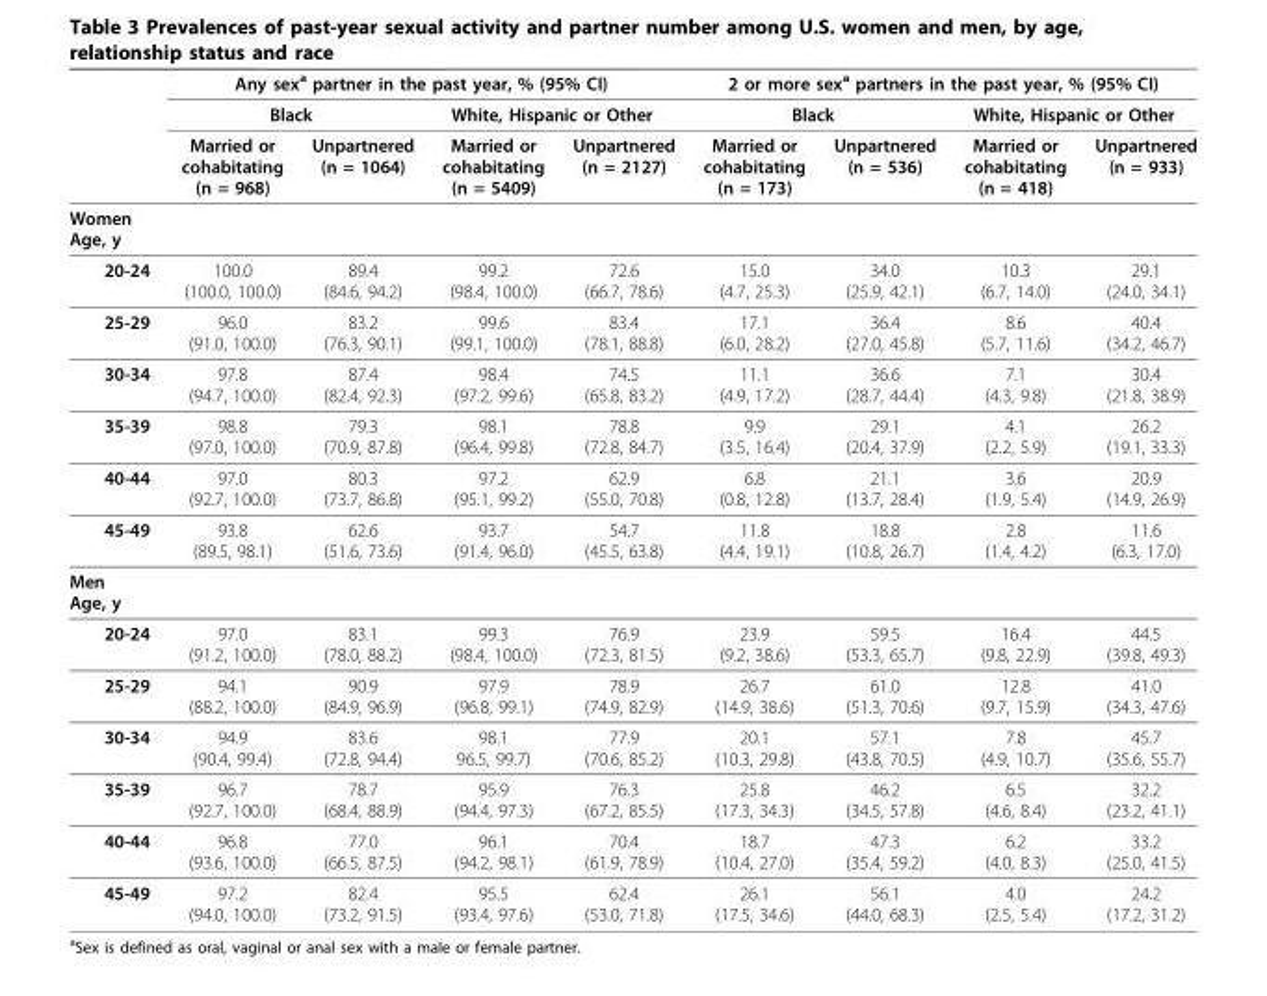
<table><thead><tr><td rowspan="3"></td><td colspan="4">Any sex<sup>a</sup> partner in the past year, % (95% CI)</td><td colspan="4">2 or more sex<sup>a</sup> partners in the past year, % (95% CI)</td></tr><tr><td colspan="2">Black</td><td colspan="2">White, Hispanic or Other</td><td colspan="2">Black</td><td colspan="2">White, Hispanic or Other</td></tr><tr><td>Married or cohabitating (n = 968)</td><td>Unpartnered (n = 1064)</td><td>Married or cohabitating (n = 5409)</td><td>Unpartnered (n = 2127)</td><td>Married or cohabitating (n = 173)</td><td>Unpartnered (n = 536)</td><td>Married or cohabitating (n = 418)</td><td>Unpartnered (n = 933)</td></tr></thead><tbody><tr><td colspan="9">Women Age, y</td></tr><tr><td>20-24</td><td>100.0 (100.0, 100.0)</td><td>89.4 (84.6, 94.2)</td><td>99.2 (98.4, 100.0)</td><td>72.6 (66.7, 78.6)</td><td>15.0 (4.7, 25.3)</td><td>34.0 (25.9, 42.1)</td><td>10.3 (6.7, 14.0)</td><td>29.1 (24.0, 34.1)</td></tr><tr><td>25-29</td><td>96.0 (91.0, 100.0)</td><td>83.2 (76.3, 90.1)</td><td>99.6 (99.1, 100.0)</td><td>83.4 (78.1, 88.8)</td><td>17.1 (6.0, 28.2)</td><td>36.4 (27.0, 45.8)</td><td>8.6 (5.7, 11.6)</td><td>40.4 (34.2, 46.7)</td></tr><tr><td>30-34</td><td>97.8 (94.7, 100.0)</td><td>87.4 (82.4, 92.3)</td><td>98.4 (97.2, 99.6)</td><td>74.5 (65.8, 83.2)</td><td>11.1 (4.9, 17.2)</td><td>36.6 (28.7, 44.4)</td><td>7.1 (4.3, 9.8)</td><td>30.4 (21.8, 38.9)</td></tr><tr><td>35-39</td><td>98.8 (97.0, 100.0)</td><td>79.3 (70.9, 87.8)</td><td>98.1 (96.4, 99.8)</td><td>78.8 (72.8, 84.7)</td><td>9.9 (3.5, 16.4)</td><td>29.1 (20.4, 37.9)</td><td>4.1 (2.2, 5.9)</td><td>26.2 (19.1, 33.3)</td></tr><tr><td>40-44</td><td>97.0 (92.7, 100.0)</td><td>80.3 (73.7, 86.8)</td><td>97.2 (95.1, 99.2)</td><td>62.9 (55.0, 70.8)</td><td>6.8 (0.8, 12.8)</td><td>21.1 (13.7, 28.4)</td><td>3.6 (1.9, 5.4)</td><td>20.9 (14.9, 26.9)</td></tr><tr><td>45-49</td><td>93.8 (89.5, 98.1)</td><td>62.6 (51.6, 73.6)</td><td>93.7 (91.4, 96.0)</td><td>54.7 (45.5, 63.8)</td><td>11.8 (4.4, 19.1)</td><td>18.8 (10.8, 26.7)</td><td>2.8 (1.4, 4.2)</td><td>11.6 (6.3, 17.0)</td></tr><tr><td colspan="9">Men Age, y</td></tr><tr><td>20-24</td><td>97.0 (91.2, 100.0)</td><td>83.1 (78.0, 88.2)</td><td>99.3 (98.4, 100.0)</td><td>76.9 (72.3, 81.5)</td><td>23.9 (9.2, 38.6)</td><td>59.5 (53.3, 65.7)</td><td>16.4 (9.8, 22.9)</td><td>44.5 (39.8, 49.3)</td></tr><tr><td>25-29</td><td>94.1 (88.2, 100.0)</td><td>90.9 (84.9, 96.9)</td><td>97.9 (96.8, 99.1)</td><td>78.9 (74.9, 82.9)</td><td>26.7 (14.9, 38.6)</td><td>61.0 (51.3, 70.6)</td><td>12.8 (9.7, 15.9)</td><td>41.0 (34.3, 47.6)</td></tr><tr><td>30-34</td><td>94.9 (90.4, 99.4)</td><td>83.6 (72.8, 94.4)</td><td>98.1 96.5, 99.7)</td><td>77.9 (70.6, 85.2)</td><td>20.1 (10.3, 29.8)</td><td>57.1 (43.8, 70.5)</td><td>7.8 (4.9, 10.7)</td><td>45.7 (35.6, 55.7)</td></tr><tr><td>35-39</td><td>96.7 (92.7, 100.0)</td><td>78.7 (68.4, 88.9)</td><td>95.9 (94.4, 97.3)</td><td>76.3 (67.2, 85.5)</td><td>25.8 (17.3, 34.3)</td><td>46.2 (34.5, 57.8)</td><td>6.5 (4.6, 8.4)</td><td>32.2 (23.2, 41.1)</td></tr><tr><td>40-44</td><td>96.8 (93.6, 100.0)</td><td>77.0 (66.5, 87.5)</td><td>96.1 (94.2, 98.1)</td><td>70.4 (61.9, 78.9)</td><td>18.7 (10.4, 27.0)</td><td>47.3 (35.4, 59.2)</td><td>6.2 (4.0, 8.3)</td><td>33.2 (25.0, 41.5)</td></tr><tr><td>45-49</td><td>97.2 (94.0, 100.0)</td><td>82.4 (73.2, 91.5)</td><td>95.5 (93.4, 97.6)</td><td>62.4 (53.0, 71.8)</td><td>26.1 (17.5, 34.6)</td><td>56.1 (44.0, 68.3)</td><td>4.0 (2.5, 5.4)</td><td>24.2 (17.2, 31.2)</td></tr></tbody></table>